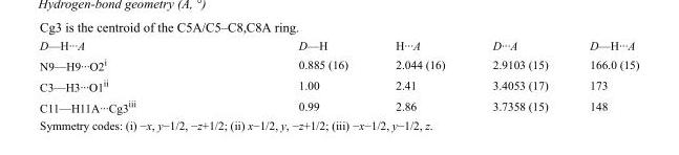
<table><tbody><tr><td>D—H···A</td><td>D—H</td><td>H···A</td><td>D···A</td><td>D—H···A</td></tr><tr><td>N9—H9···O2<sup>i</sup></td><td>0.885 (16)</td><td>2.044 (16)</td><td>2.9103 (15)</td><td>166.0 (15)</td></tr><tr><td>C3—H3···O1<sup>ii</sup></td><td>1.00</td><td>2.41</td><td>3.4053 (17)</td><td>173</td></tr><tr><td>C11—H11A···Cg3<sup>iii</sup></td><td>0.99</td><td>2.86</td><td>3.7358 (15)</td><td>148</td></tr></tbody></table>